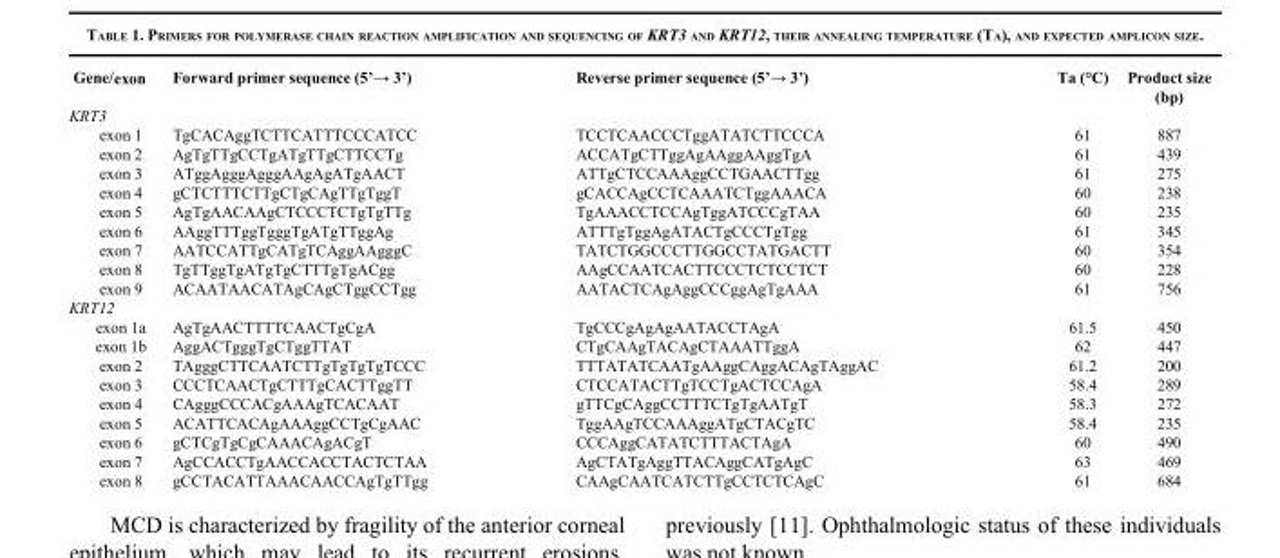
<table><thead><tr><td>Gene/exon</td><td>Forward primer sequence (5’→ 3’)</td><td>Reverse primer sequence (5’→ 3’)</td><td>Ta (°C)</td><td>Product size (bp)</td></tr></thead><tbody><tr><td colspan="5">KRT3</td></tr><tr><td>exon 1</td><td>TgCACAggTCTTCATTTCCCATCC</td><td>TCCTCAACCCTggATATCTTCCCA</td><td>61</td><td>887</td></tr><tr><td>exon 2</td><td>AgTgTTgCCTgATgTTgCTTCCTg</td><td>ACCATgCTTggAgAAggAAggTgA</td><td>61</td><td>439</td></tr><tr><td>exon 3</td><td>ATggAgggAgggAAgAgATgAACT</td><td>ATTgCTCCAAAggCCTGAACTTgg</td><td>61</td><td>275</td></tr><tr><td>exon 4</td><td>gCTCTTTCTTgCTgCAgTTgTggT</td><td>gCACCAgCCTCAAATCTggAAACA</td><td>60</td><td>238</td></tr><tr><td>exon 5</td><td>AgTgAACAAgCTCCCTCTgTgTTg</td><td>TgAAACCTCCAgTggATCCCgTAA</td><td>60</td><td>235</td></tr><tr><td>exon 6</td><td>AAggTTTggTgggTgATgTTggAg</td><td>ATTTgTggAgATACTgCCCTgTgg</td><td>61</td><td>345</td></tr><tr><td>exon 7</td><td>AATCCATTgCATgTCAggAAgggC</td><td>TATCTGGCCCTTGGCCTATGACTT</td><td>60</td><td>354</td></tr><tr><td>exon 8</td><td>TgTTggTgATgTgCTTTgTgACgg</td><td>AAgCCAATCACTTCCCTCTCCTCT</td><td>60</td><td>228</td></tr><tr><td>exon 9</td><td>ACAATAACATAgCAgCTggCCTgg</td><td>AATACTCAgAggCCCggAgTgAAA</td><td>61</td><td>756</td></tr><tr><td colspan="5">KRT12</td></tr><tr><td>exon 1a</td><td>AgTgAACTTTTCAACTgCgA</td><td>TgCCCgAgAgAATACCTAgA</td><td>61.5</td><td>450</td></tr><tr><td>exon 1b</td><td>AggACTgggTgCTggTTAT</td><td>CTgCAAgTACAgCTAAATTggA</td><td>62</td><td>447</td></tr><tr><td>exon 2</td><td>TAgggCTTCAATCTTgTgTgTgTCCC</td><td>TTTATATCAATgAAggCAggACAgTAggAC</td><td>61.2</td><td>200</td></tr><tr><td>exon 3</td><td>CCCTCAACTgCTTTgCACTTggTT</td><td>CTCCATACTTgTCCTgACTCCAgA</td><td>58.4</td><td>289</td></tr><tr><td>exon 4</td><td>CAgggCCCACgAAAgTCACAAT</td><td>gTTCgCAggCCTTTCTgTgAATgT</td><td>58.3</td><td>272</td></tr><tr><td>exon 5</td><td>ACATTCACAgAAAggCCTgCgAAC</td><td>TggAAgTCCAAAggATgCTACgTC</td><td>58.4</td><td>235</td></tr><tr><td>exon 6</td><td>gCTCgTgCgCAAACAgACgT</td><td>CCCAggCATATCTTTACTAgA</td><td>60</td><td>490</td></tr><tr><td>exon 7</td><td>AgCCACCTgAACCACCTACTCTAA</td><td>AgCTATgAggTTACAggCATgAgC</td><td>63</td><td>469</td></tr><tr><td>exon 8</td><td>gCCTACATTAAACAACCAgTgTTgg</td><td>CAAgCAATCATCTTgCCTCTCAgC</td><td>61</td><td>684</td></tr></tbody></table>